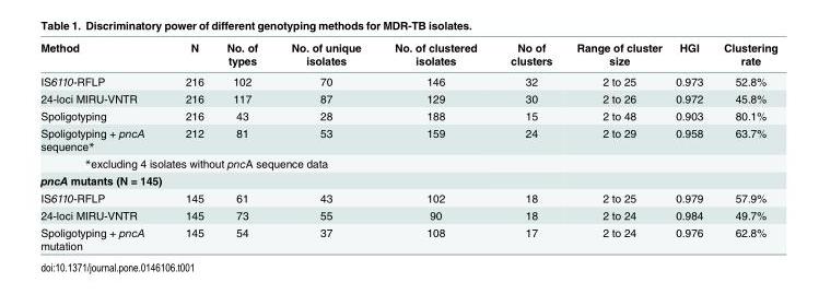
<table><thead><tr><td>Method</td><td>N</td><td>No. of types</td><td>No. of unique isolates</td><td>No. of clustered isolates</td><td>No of clusters</td><td>Range of cluster size</td><td>HGI</td><td>Clustering rate</td></tr></thead><tbody><tr><td>IS6110-RFLP</td><td>216</td><td>102</td><td>70</td><td>146</td><td>32</td><td>2 to 25</td><td>0.973</td><td>52.8%</td></tr><tr><td>24-loci MIRU-VNTR</td><td>216</td><td>117</td><td>87</td><td>129</td><td>30</td><td>2 to 26</td><td>0.972</td><td>45.8%</td></tr><tr><td>Spoligotyping</td><td>216</td><td>43</td><td>28</td><td>188</td><td>15</td><td>2 to 48</td><td>0.903</td><td>80.1%</td></tr><tr><td>Spoligotyping + pncA sequence*</td><td>212</td><td>81</td><td>53</td><td>159</td><td>24</td><td>2 to 29</td><td>0.958</td><td>63.7%</td></tr><tr><td colspan="9">*excluding 4 isolates without pncA sequence data</td></tr><tr><td colspan="9">pncA mutants (N = 145)</td></tr><tr><td>IS6110-RFLP</td><td>145</td><td>61</td><td>43</td><td>102</td><td>18</td><td>2 to 25</td><td>0.979</td><td>57.9%</td></tr><tr><td>24-loci MIRU-VNTR</td><td>145</td><td>73</td><td>55</td><td>90</td><td>18</td><td>2 to 24</td><td>0.984</td><td>49.7%</td></tr><tr><td>Spoligotyping + pncA mutation</td><td>145</td><td>54</td><td>37</td><td>108</td><td>17</td><td>2 to 24</td><td>0.976</td><td>62.8%</td></tr></tbody></table>